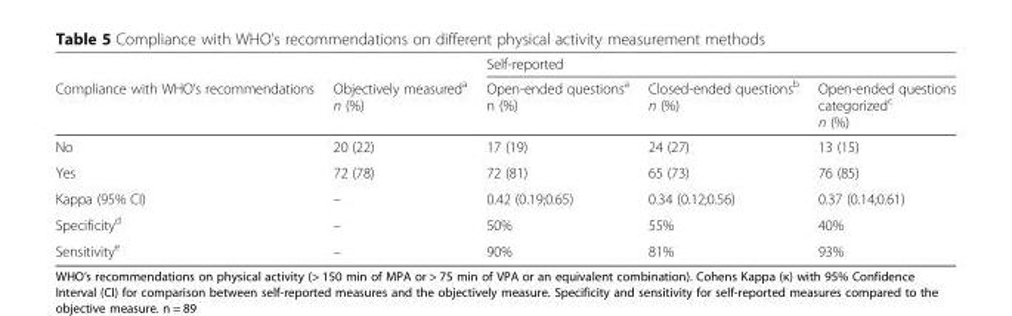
<table><thead><tr><td rowspan="2">Compliance with WHO’s recommendations</td><td rowspan="2">Objectively measured<sup>a</sup> n (%)</td><td colspan="3">Self-reported</td></tr><tr><td>Open-ended questions<sup>a</sup> n (%)</td><td>Closed-ended questions<sup>b</sup> n (%)</td><td>Open-ended questions categorized<sup>c</sup> n (%)</td></tr></thead><tbody><tr><td>No</td><td>20 (22)</td><td>17 (19)</td><td>24 (27)</td><td>13 (15)</td></tr><tr><td>Yes</td><td>72 (78)</td><td>72 (81)</td><td>65 (73)</td><td>76 (85)</td></tr><tr><td>Kappa (95% CI)</td><td>–</td><td>0.42 (0.19;0.65)</td><td>0.34 (0.12;0.56)</td><td>0.37 (0.14;0.61)</td></tr><tr><td>Specificity<sup>d</sup></td><td>–</td><td>50%</td><td>55%</td><td>40%</td></tr><tr><td>Sensitivity<sup>e</sup></td><td>–</td><td>90%</td><td>81%</td><td>93%</td></tr></tbody></table>